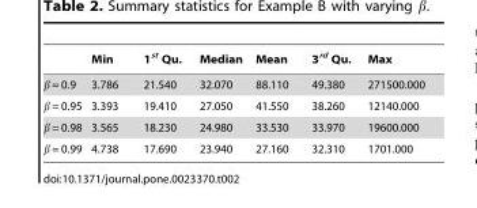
<table><thead><tr><td></td><td>Min</td><td>1<sup>st</sup> Qu.</td><td>Median</td><td>Mean</td><td>3<sup>rd</sup> Qu.</td><td>Max</td></tr></thead><tbody><tr><td>= 0.9</td><td>3.786</td><td>21.540</td><td>32.070</td><td>88.110</td><td>49.380</td><td>271500.000</td></tr><tr><td>= 0.95</td><td>3.393</td><td>19.410</td><td>27.050</td><td>41.550</td><td>38.260</td><td>12140.000</td></tr><tr><td>= 0.98</td><td>3.565</td><td>18.230</td><td>24.980</td><td>33.530</td><td>33.970</td><td>19600.000</td></tr><tr><td>= 0.99</td><td>4.738</td><td>17.690</td><td>23.940</td><td>27.160</td><td>32.310</td><td>1701.000</td></tr></tbody></table>